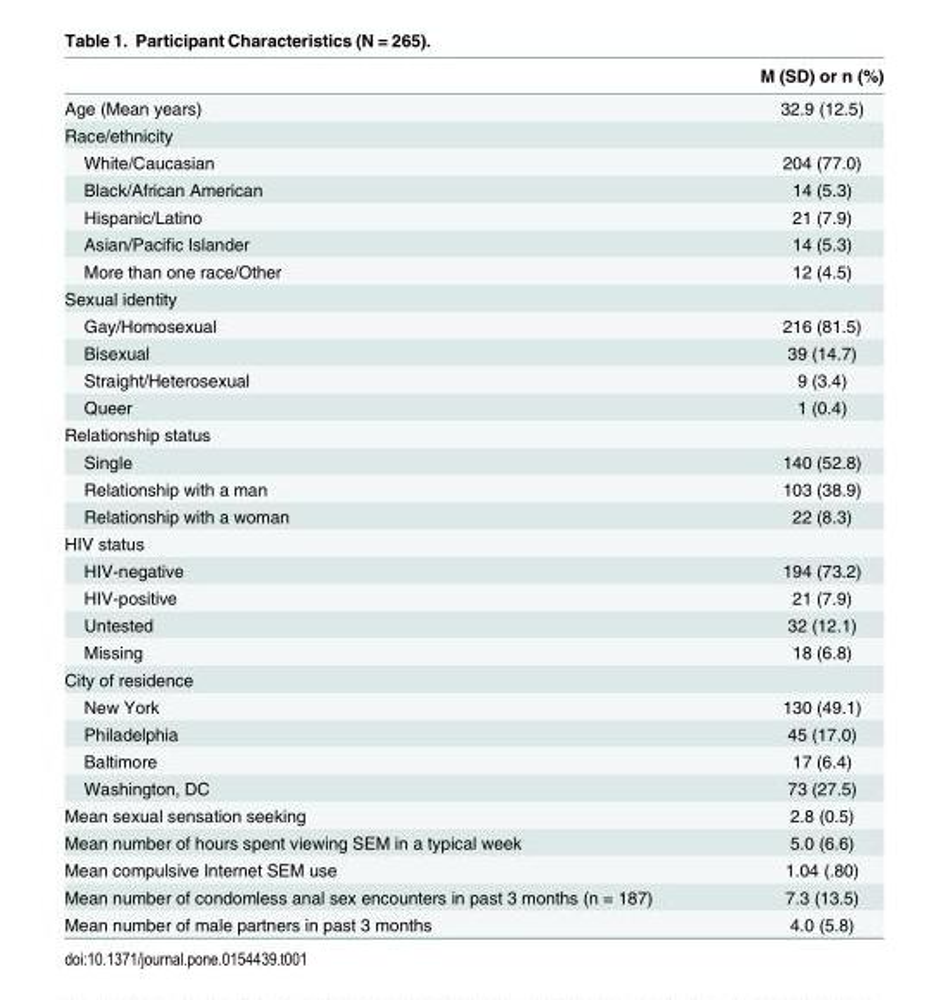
<table><thead><tr><td></td><td>M (SD) or n (%)</td></tr></thead><tbody><tr><td>Age (Mean years)</td><td>32.9 (12.5)</td></tr><tr><td colspan="2">Race/ethnicity</td></tr><tr><td>White/Caucasian</td><td>204 (77.0)</td></tr><tr><td>Black/African American</td><td>14 (5.3)</td></tr><tr><td>Hispanic/Latino</td><td>21 (7.9)</td></tr><tr><td>Asian/Pacific Islander</td><td>14 (5.3)</td></tr><tr><td>More than one race/Other</td><td>12 (4.5)</td></tr><tr><td colspan="2">Sexual identity</td></tr><tr><td>Gay/Homosexual</td><td>216 (81.5)</td></tr><tr><td>Bisexual</td><td>39 (14.7)</td></tr><tr><td>Straight/Heterosexual</td><td>9 (3.4)</td></tr><tr><td>Queer</td><td>1 (0.4)</td></tr><tr><td colspan="2">Relationship status</td></tr><tr><td>Single</td><td>140 (52.8)</td></tr><tr><td>Relationship with a man</td><td>103 (38.9)</td></tr><tr><td>Relationship with a woman</td><td>22 (8.3)</td></tr><tr><td colspan="2">HIV status</td></tr><tr><td>HIV-negative</td><td>194 (73.2)</td></tr><tr><td>HIV-positive</td><td>21 (7.9)</td></tr><tr><td>Untested</td><td>32 (12.1)</td></tr><tr><td>Missing</td><td>18 (6.8)</td></tr><tr><td colspan="2">City of residence</td></tr><tr><td>New York</td><td>130 (49.1)</td></tr><tr><td>Philadelphia</td><td>45 (17.0)</td></tr><tr><td>Baltimore</td><td>17 (6.4)</td></tr><tr><td>Washington, DC</td><td>73 (27.5)</td></tr><tr><td>Mean sexual sensation seeking</td><td>2.8 (0.5)</td></tr><tr><td>Mean number of hours spent viewing SEM in a typical week</td><td>5.0 (6.6)</td></tr><tr><td>Mean compulsive Internet SEM use</td><td>1.04 (.80)</td></tr><tr><td>Mean number of condomless anal sex encounters in past 3 months (n = 187)</td><td>7.3 (13.5)</td></tr><tr><td>Mean number of male partners in past 3 months</td><td>4.0 (5.8)</td></tr></tbody></table>